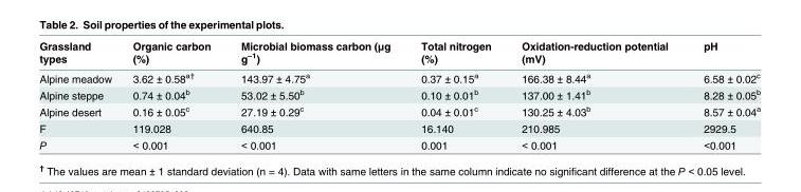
<table><thead><tr><td>Grassland types</td><td>Organic carbon (%)</td><td>Microbial biomass carbon (μg g<sup>–1</sup>)</td><td>Total nitrogen (%)</td><td>Oxidation-reduction potential (mV)</td><td>pH</td></tr></thead><tbody><tr><td>Alpine meadow</td><td>3.62 ± 0.58<sup>a†</sup></td><td>143.97 ± 4.75<sup>a</sup></td><td>0.37 ± 0.15<sup>a</sup></td><td>166.38 ± 8.44<sup>a</sup></td><td>6.58 ± 0.02<sup>c</sup></td></tr><tr><td>Alpine steppe</td><td>0.74 ± 0.04<sup>b</sup></td><td>53.02 ± 5.50<sup>b</sup></td><td>0.10 ± 0.01<sup>b</sup></td><td>137.00 ± 1.41<sup>b</sup></td><td>8.28 ± 0.05<sup>b</sup></td></tr><tr><td>Alpine desert</td><td>0.16 ± 0.05<sup>c</sup></td><td>27.19 ± 0.29<sup>c</sup></td><td>0.04 ± 0.01<sup>c</sup></td><td>130.25 ± 4.03<sup>b</sup></td><td>8.57 ± 0.04<sup>a</sup></td></tr><tr><td>F</td><td>119.028</td><td>640.85</td><td>16.140</td><td>210.985</td><td>2929.5</td></tr><tr><td>P</td><td>&lt; 0.001</td><td>&lt; 0.001</td><td>0.001</td><td>&lt; 0.001</td><td>&lt;0.001</td></tr></tbody></table>